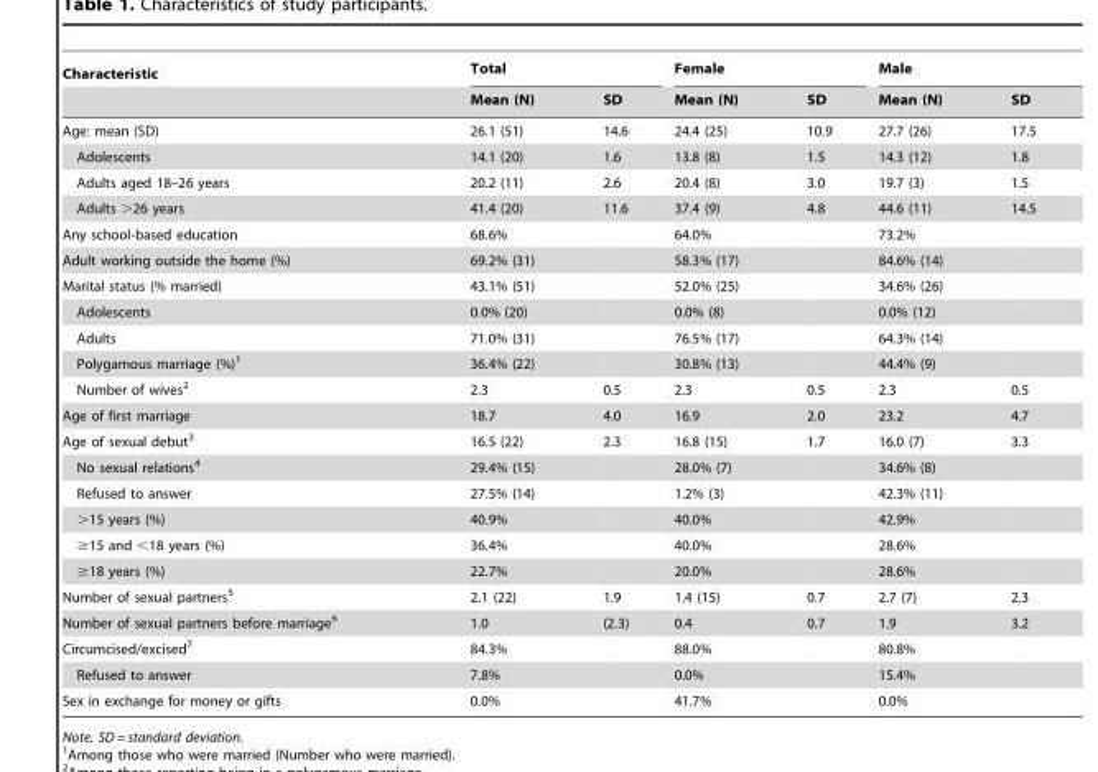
<table><thead><tr><td rowspan="2">Characteristic</td><td colspan="2">Total</td><td colspan="2">Female</td><td colspan="2">Male</td></tr><tr><td>Mean (N)</td><td>SD</td><td>Mean (N)</td><td>SD</td><td>Mean (N)</td><td>SD</td></tr></thead><tbody><tr><td>Age: mean (SD)</td><td>26.1 (51)</td><td>14.6</td><td>24.4 (25)</td><td>10.9</td><td>27.7 (26)</td><td>17.5</td></tr><tr><td>Adolescents</td><td>14.1 (20)</td><td>1.6</td><td>13.8 (8)</td><td>1.5</td><td>14.3 (12)</td><td>1.8</td></tr><tr><td>Adults aged 18–26 years</td><td>20.2 (11)</td><td>2.6</td><td>20.4 (8)</td><td>3.0</td><td>19.7 (3)</td><td>1.5</td></tr><tr><td>Adults &gt;26 years</td><td>41.4 (20)</td><td>11.6</td><td>37.4 (9)</td><td>4.8</td><td>44.6 (11)</td><td>14.5</td></tr><tr><td>Any school-based education</td><td>68.6%</td><td></td><td>64.0%</td><td></td><td>73.2%</td><td></td></tr><tr><td>Adult working outside the home (%)</td><td>69.2% (31)</td><td></td><td>58.3% (17)</td><td></td><td>84.6% (14)</td><td></td></tr><tr><td>Marital status (% married)</td><td>43.1% (51)</td><td></td><td>52.0% (25)</td><td></td><td>34.6% (26)</td><td></td></tr><tr><td>Adolescents</td><td>0.0% (20)</td><td></td><td>0.0% (8)</td><td></td><td>0.0% (12)</td><td></td></tr><tr><td>Adults</td><td>71.0% (31)</td><td></td><td>76.5% (17)</td><td></td><td>64.3% (14)</td><td></td></tr><tr><td>Polygamous marriage (%)<sup>1</sup></td><td>36.4% (22)</td><td></td><td>30.8% (13)</td><td></td><td>44.4% (9)</td><td></td></tr><tr><td>Number of wives<sup>2</sup></td><td>2.3</td><td>0.5</td><td>2.3</td><td>0.5</td><td>2.3</td><td>0.5</td></tr><tr><td>Age of first marriage</td><td>18.7</td><td>4.0</td><td>16.9</td><td>2.0</td><td>23.2</td><td>4.7</td></tr><tr><td>Age of sexual debut<sup>3</sup></td><td>16.5 (22)</td><td>2.3</td><td>16.8 (15)</td><td>1.7</td><td>16.0 (7)</td><td>3.3</td></tr><tr><td>No sexual relations<sup>4</sup></td><td>29.4% (15)</td><td></td><td>28.0% (7)</td><td></td><td>34.6% (8)</td><td></td></tr><tr><td>Refused to answer</td><td>27.5% (14)</td><td></td><td>1.2% (3)</td><td></td><td>42.3% (11)</td><td></td></tr><tr><td>&gt;15 years (%)</td><td>40.9%</td><td></td><td>40.0%</td><td></td><td>42.9%</td><td></td></tr><tr><td>≥15 and &lt;18 years (%)</td><td>36.4%</td><td></td><td>40.0%</td><td></td><td>28.6%</td><td></td></tr><tr><td>≥18 years (%)</td><td>22.7%</td><td></td><td>20.0%</td><td></td><td>28.6%</td><td></td></tr><tr><td>Number of sexual partners<sup>5</sup></td><td>2.1 (22)</td><td>1.9</td><td>1.4 (15)</td><td>0.7</td><td>2.7 (7)</td><td>2.3</td></tr><tr><td>Number of sexual partners before marriage<sup>6</sup></td><td>1.0</td><td>(2.3)</td><td>0.4</td><td>0.7</td><td>1.9</td><td>3.2</td></tr><tr><td>Circumcised/excised<sup>7</sup></td><td>84.3%</td><td></td><td>88.0%</td><td></td><td>80.8%</td><td></td></tr><tr><td>Refused to answer</td><td>7.8%</td><td></td><td>0.0%</td><td></td><td>15.4%</td><td></td></tr><tr><td>Sex in exchange for money or gifts</td><td>0.0%</td><td></td><td>41.7%</td><td></td><td>0.0%</td><td></td></tr></tbody></table>